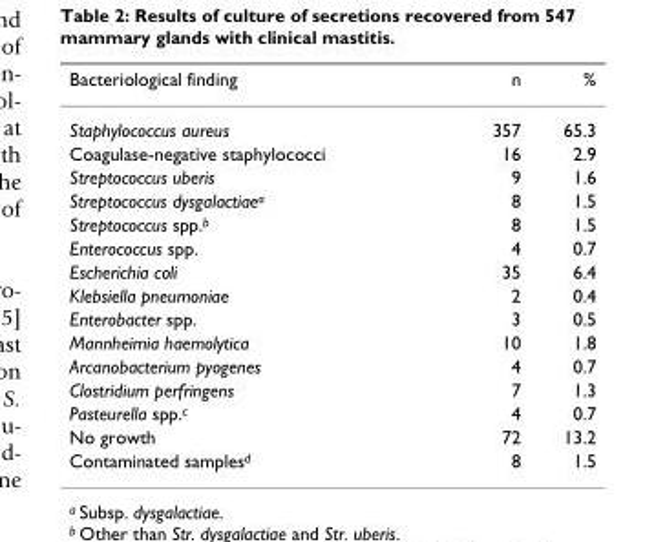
<table><thead><tr><td>Bacteriological finding</td><td>n</td><td>%</td></tr></thead><tbody><tr><td>Staphylococcus aureus</td><td>357</td><td>65.3</td></tr><tr><td>Coagulase-negative staphylococci</td><td>16</td><td>2.9</td></tr><tr><td>Streptococcus uberis</td><td>9</td><td>1.6</td></tr><tr><td>Streptococcus dysgalactiae<sup>a</sup></td><td>8</td><td>1.5</td></tr><tr><td>Streptococcus spp.<sup>b</sup></td><td>8</td><td>1.5</td></tr><tr><td>Enterococcus spp.</td><td>4</td><td>0.7</td></tr><tr><td>Escherichia coli</td><td>35</td><td>6.4</td></tr><tr><td>Klebsiella pneumoniae</td><td>2</td><td>0.4</td></tr><tr><td>Enterobacter spp.</td><td>3</td><td>0.5</td></tr><tr><td>Mannheimia haemolytica</td><td>10</td><td>1.8</td></tr><tr><td>Arcanobacterium pyogenes</td><td>4</td><td>0.7</td></tr><tr><td>Clostridium perfringens</td><td>7</td><td>1.3</td></tr><tr><td>Pasteurella spp.<sup>c</sup></td><td>4</td><td>0.7</td></tr><tr><td>No growth</td><td>72</td><td>13.2</td></tr><tr><td>Contaminated samples<sup>d</sup></td><td>8</td><td>1.5</td></tr></tbody></table>